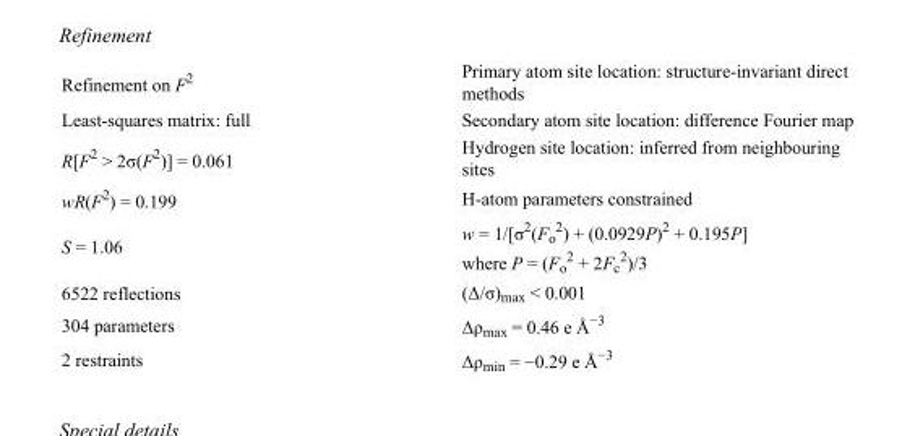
<table><tbody><tr><td>Refinement on F<sup>2</sup></td><td>Primary atom site location: structure-invariant direct methods</td></tr><tr><td>Least-squares matrix: full</td><td>Secondary atom site location: difference Fourier map</td></tr><tr><td>R[F<sup>2</sup> &gt; 2σ(F<sup>2</sup>)] = 0.061</td><td>Hydrogen site location: inferred from neighbouring sites</td></tr><tr><td>wR(F<sup>2</sup>) = 0.199</td><td>H-atom parameters constrained</td></tr><tr><td>S = 1.06</td><td>w = 1/[σ<sup>2</sup>(F<sub>o</sub> <sup>2</sup>) + (0.0929P)<sup>2</sup> + 0.195P] where P = (F<sub>o</sub> <sup>2</sup> + 2F<sub>c</sub> <sup>2</sup>)/3</td></tr><tr><td>6522 reflections</td><td>(Δ/σ)<sub>max</sub> &lt; 0.001</td></tr><tr><td>304 parameters</td><td>Δρ<sub>max</sub> = 0.46 e Å<sup>−3</sup></td></tr><tr><td>2 restraints</td><td>Δρ<sub>min</sub> = −0.29 e Å<sup>−3</sup></td></tr></tbody></table>